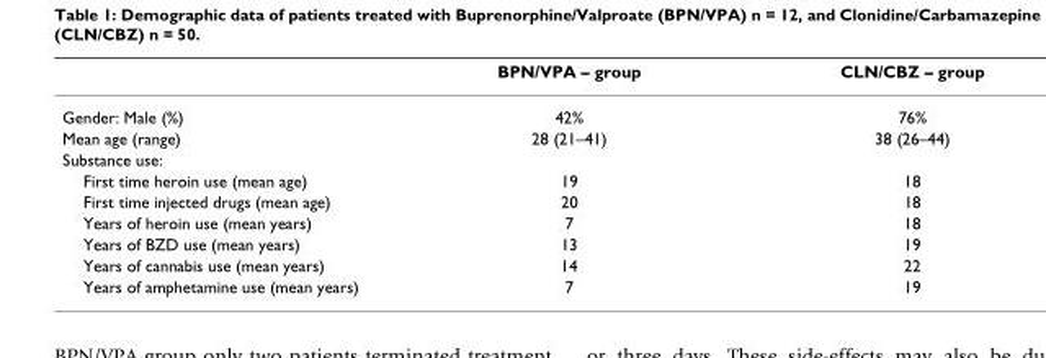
<table><thead><tr><td></td><td>BPN/VPA – group</td><td>CLN/CBZ – group</td></tr></thead><tbody><tr><td>Gender: Male (%)</td><td>42%</td><td>76%</td></tr><tr><td>Mean age (range)</td><td>28 (21–41)</td><td>38 (26–44)</td></tr><tr><td colspan="3">Substance use:</td></tr><tr><td>First time heroin use (mean age)</td><td>19</td><td>18</td></tr><tr><td>First time injected drugs (mean age)</td><td>20</td><td>18</td></tr><tr><td>Years of heroin use (mean years)</td><td>7</td><td>18</td></tr><tr><td>Years of BZD use (mean years)</td><td>13</td><td>19</td></tr><tr><td>Years of cannabis use (mean years)</td><td>14</td><td>22</td></tr><tr><td>Years of amphetamine use (mean years)</td><td>7</td><td>19</td></tr></tbody></table>